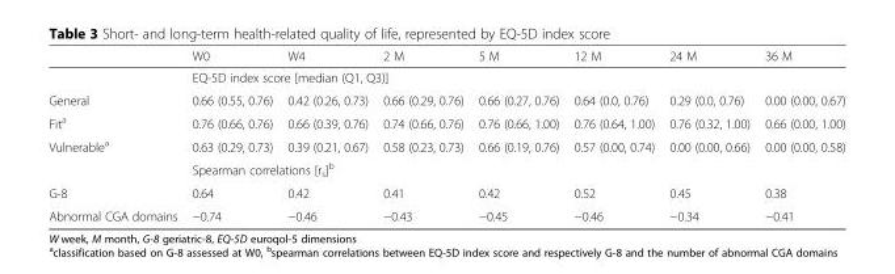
<table><thead><tr><td></td><td>W0</td><td>W4</td><td>2 M</td><td>5 M</td><td>12 M</td><td>24 M</td><td>36 M</td></tr></thead><tbody><tr><td></td><td colspan="7">EQ-5D index score [median (Q1, Q3)]</td></tr><tr><td>General</td><td>0.66 (0.55, 0.76)</td><td>0.42 (0.26, 0.73)</td><td>0.66 (0.29, 0.76)</td><td>0.66 (0.27, 0.76)</td><td>0.64 (0.0, 0.76)</td><td>0.29 (0.0, 0.76)</td><td>0.00 (0.00, 0.67)</td></tr><tr><td>Fit<sup>a</sup></td><td>0.76 (0.66, 0.76)</td><td>0.66 (0.39, 0.76)</td><td>0.74 (0.66, 0.76)</td><td>0.76 (0.66, 1.00)</td><td>0.76 (0.64, 1.00)</td><td>0.76 (0.32, 1.00)</td><td>0.66 (0.00, 1.00)</td></tr><tr><td rowspan="2">Vulnerable<sup>a</sup></td><td>0.63 (0.29, 0.73)</td><td>0.39 (0.21, 0.67)</td><td>0.58 (0.23, 0.73)</td><td>0.66 (0.19, 0.76)</td><td>0.57 (0.00, 0.74)</td><td>0.00 (0.00, 0.66)</td><td>0.00 (0.00, 0.58)</td></tr><tr><td colspan="7">Spearman correlations [r<sub>s</sub>]<sup>b</sup></td></tr><tr><td>G-8</td><td>0.64</td><td>0.42</td><td>0.41</td><td>0.42</td><td>0.52</td><td>0.45</td><td>0.38</td></tr><tr><td>Abnormal CGA domains</td><td>−0.74</td><td>−0.46</td><td>−0.43</td><td>−0.45</td><td>−0.46</td><td>−0.34</td><td>−0.41</td></tr></tbody></table>